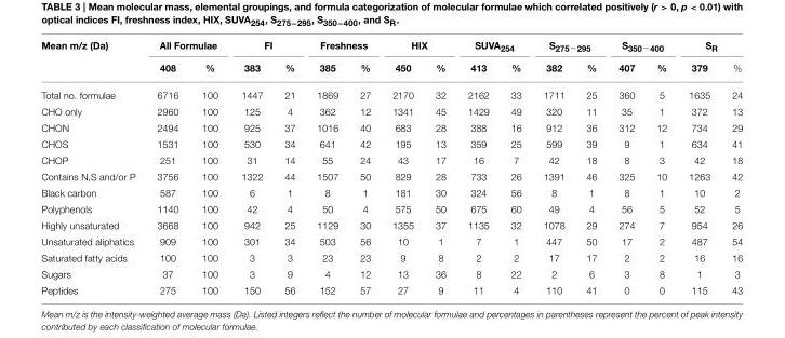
<table><thead><tr><td rowspan="2">Mean m/z (Da)</td><td colspan="2">All Formulae</td><td colspan="2">FI</td><td colspan="2">Freshness</td><td colspan="2">HIX</td><td colspan="2">SUVA<sub>254</sub></td><td colspan="2">S<sub>275−295</sub></td><td colspan="2">S<sub>350−400</sub></td><td colspan="2">SR</td></tr><tr><td>408</td><td>%</td><td>383</td><td>%</td><td>385</td><td>%</td><td>450</td><td>%</td><td>413</td><td>%</td><td>382</td><td>%</td><td>407</td><td>%</td><td>379</td><td>%</td></tr></thead><tbody><tr><td>Total no. formulae</td><td>6716</td><td>100</td><td>1447</td><td>21</td><td>1869</td><td>27</td><td>2170</td><td>32</td><td>2162</td><td>33</td><td>1711</td><td>25</td><td>360</td><td>5</td><td>1635</td><td>24</td></tr><tr><td>CHO only</td><td>2960</td><td>100</td><td>125</td><td>4</td><td>362</td><td>12</td><td>1341</td><td>45</td><td>1429</td><td>49</td><td>320</td><td>11</td><td>35</td><td>1</td><td>372</td><td>13</td></tr><tr><td>CHON</td><td>2494</td><td>100</td><td>925</td><td>37</td><td>1016</td><td>40</td><td>683</td><td>28</td><td>388</td><td>16</td><td>912</td><td>36</td><td>312</td><td>12</td><td>734</td><td>29</td></tr><tr><td>CHOS</td><td>1531</td><td>100</td><td>530</td><td>34</td><td>641</td><td>42</td><td>195</td><td>13</td><td>359</td><td>25</td><td>599</td><td>39</td><td>9</td><td>1</td><td>634</td><td>41</td></tr><tr><td>CHOP</td><td>251</td><td>100</td><td>31</td><td>14</td><td>55</td><td>24</td><td>43</td><td>17</td><td>16</td><td>7</td><td>42</td><td>18</td><td>8</td><td>3</td><td>42</td><td>18</td></tr><tr><td>Contains N,S and/or P</td><td>3756</td><td>100</td><td>1322</td><td>44</td><td>1507</td><td>50</td><td>829</td><td>28</td><td>733</td><td>26</td><td>1391</td><td>46</td><td>325</td><td>10</td><td>1263</td><td>42</td></tr><tr><td>Black carbon</td><td>587</td><td>100</td><td>6</td><td>1</td><td>8</td><td>1</td><td>181</td><td>30</td><td>324</td><td>56</td><td>8</td><td>1</td><td>8</td><td>1</td><td>10</td><td>2</td></tr><tr><td>Polyphenols</td><td>1140</td><td>100</td><td>42</td><td>4</td><td>50</td><td>4</td><td>575</td><td>50</td><td>675</td><td>60</td><td>49</td><td>4</td><td>56</td><td>5</td><td>52</td><td>5</td></tr><tr><td>Highly unsaturated</td><td>3668</td><td>100</td><td>942</td><td>25</td><td>1129</td><td>30</td><td>1355</td><td>37</td><td>1135</td><td>32</td><td>1078</td><td>29</td><td>274</td><td>7</td><td>954</td><td>26</td></tr><tr><td>Unsaturated aliphatics</td><td>909</td><td>100</td><td>301</td><td>34</td><td>503</td><td>56</td><td>10</td><td>1</td><td>7</td><td>1</td><td>447</td><td>50</td><td>17</td><td>2</td><td>487</td><td>54</td></tr><tr><td>Saturated fatty acids</td><td>100</td><td>100</td><td>3</td><td>3</td><td>23</td><td>23</td><td>9</td><td>8</td><td>2</td><td>2</td><td>17</td><td>17</td><td>2</td><td>2</td><td>16</td><td>16</td></tr><tr><td>Sugars</td><td>37</td><td>100</td><td>3</td><td>9</td><td>4</td><td>12</td><td>13</td><td>36</td><td>8</td><td>22</td><td>2</td><td>6</td><td>3</td><td>8</td><td>1</td><td>3</td></tr><tr><td>Peptides</td><td>275</td><td>100</td><td>150</td><td>56</td><td>152</td><td>57</td><td>27</td><td>9</td><td>11</td><td>4</td><td>110</td><td>41</td><td>0</td><td>0</td><td>115</td><td>43</td></tr></tbody></table>